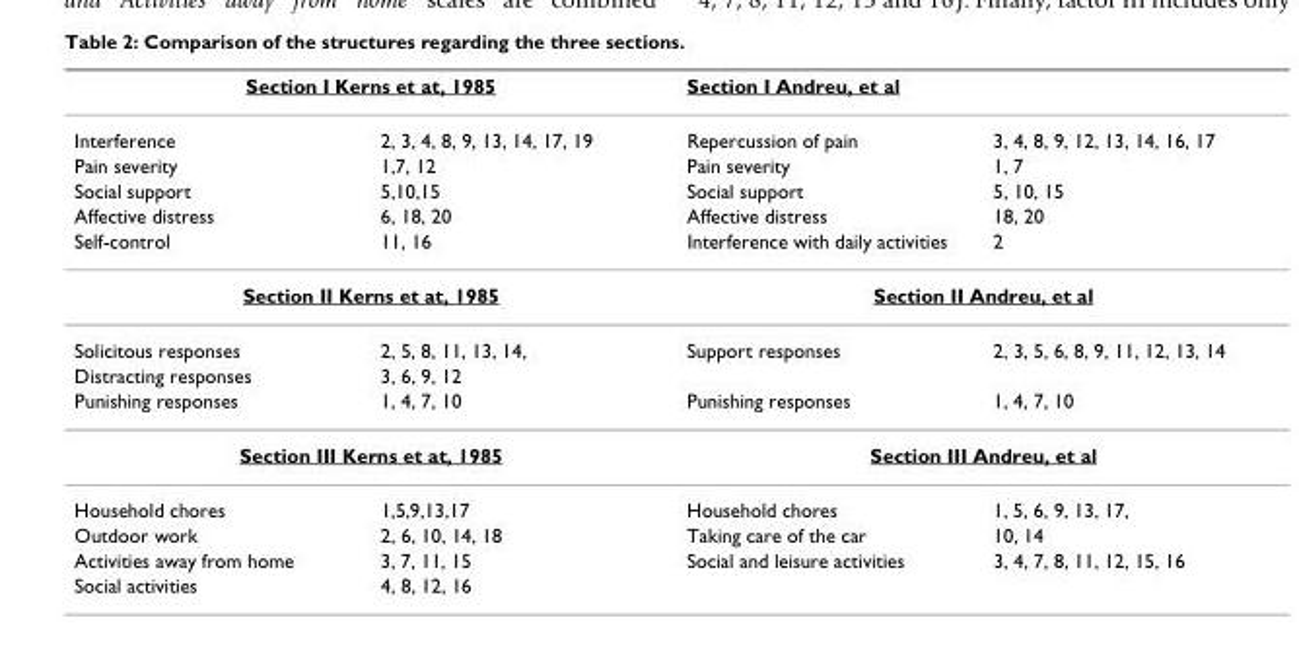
<table><thead><tr><td colspan="2">Section I Kerns et at, 1985</td><td colspan="2">Section I Andreu, et al</td></tr><tr><td>Interference</td><td>2, 3, 4, 8, 9, 13, 14, 17, 19</td><td>Repercussion of pain</td><td>3, 4, 8, 9, 12, 13, 14, 16, 17</td></tr></thead><tbody><tr><td>Pain severity</td><td>1,7, 12</td><td>Pain severity</td><td>1, 7</td></tr><tr><td>Social support</td><td>5,10,15</td><td>Social support</td><td>5, 10, 15</td></tr><tr><td>Affective distress</td><td>6, 18, 20</td><td>Affective distress</td><td>18, 20</td></tr><tr><td>Self-control</td><td>11, 16</td><td>Interference with daily activities</td><td>2</td></tr><tr><td colspan="2">Section II Kerns et at, 1985</td><td colspan="2">Section II Andreu, et al</td></tr><tr><td>Solicitous responses</td><td>2, 5, 8, 11, 13, 14,</td><td>Support responses</td><td>2, 3, 5, 6, 8, 9, 11, 12, 13, 14</td></tr><tr><td>Distracting responses</td><td>3, 6, 9, 12</td><td></td><td></td></tr><tr><td>Punishing responses</td><td>1, 4, 7, 10</td><td>Punishing responses</td><td>1, 4, 7, 10</td></tr><tr><td colspan="2">Section III Kerns et at, 1985</td><td colspan="2">Section III Andreu, et al</td></tr><tr><td>Household chores</td><td>1,5,9,13,17</td><td>Household chores</td><td>1, 5, 6, 9, 13, 17,</td></tr><tr><td>Outdoor work</td><td>2, 6, 10, 14, 18</td><td>Taking care of the car</td><td>10, 14</td></tr><tr><td>Activities away from home</td><td>3, 7, 11, 15</td><td>Social and leisure activities</td><td>3, 4, 7, 8, 11, 12, 15, 16</td></tr><tr><td>Social activities</td><td>4, 8, 12, 16</td><td></td><td></td></tr></tbody></table>